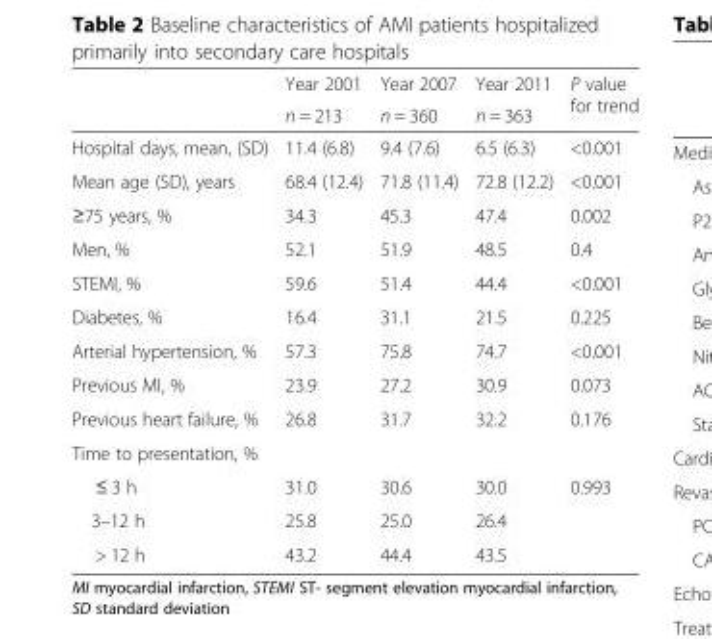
<table><thead><tr><td rowspan="2"></td><td rowspan="2">Year 2001 n = 213</td><td rowspan="2">Year 2007 n = 360</td><td rowspan="2">Year 2011 n = 363</td><td rowspan="2">P value for trend</td></tr><tr></tr></thead><tbody><tr><td>Hospital days, mean, (SD)</td><td>11.4 (6.8)</td><td>9.4 (7.6)</td><td>6.5 (6.3)</td><td>&lt;0.001</td></tr><tr><td>Mean age (SD), years</td><td>68.4 (12.4)</td><td>71.8 (11.4)</td><td>72.8 (12.2)</td><td>&lt;0.001</td></tr><tr><td>≥75 years, %</td><td>34.3</td><td>45.3</td><td>47.4</td><td>0.002</td></tr><tr><td>Men, %</td><td>52.1</td><td>51.9</td><td>48.5</td><td>0.4</td></tr><tr><td>STEMI, %</td><td>59.6</td><td>51.4</td><td>44.4</td><td>&lt;0.001</td></tr><tr><td>Diabetes, %</td><td>16.4</td><td>31.1</td><td>21.5</td><td>0.225</td></tr><tr><td>Arterial hypertension, %</td><td>57.3</td><td>75.8</td><td>74.7</td><td>&lt;0.001</td></tr><tr><td>Previous MI, %</td><td>23.9</td><td>27.2</td><td>30.9</td><td>0.073</td></tr><tr><td>Previous heart failure, %</td><td>26.8</td><td>31.7</td><td>32.2</td><td>0.176</td></tr><tr><td colspan="5">Time to presentation, %</td></tr><tr><td>≤ 3 h</td><td>31.0</td><td>30.6</td><td>30.0</td><td rowspan="3">0.993</td></tr><tr><td>3–12 h</td><td>25.8</td><td>25.0</td><td>26.4</td></tr><tr><td>&gt; 12 h</td><td>43.2</td><td>44.4</td><td>43.5</td></tr></tbody></table>